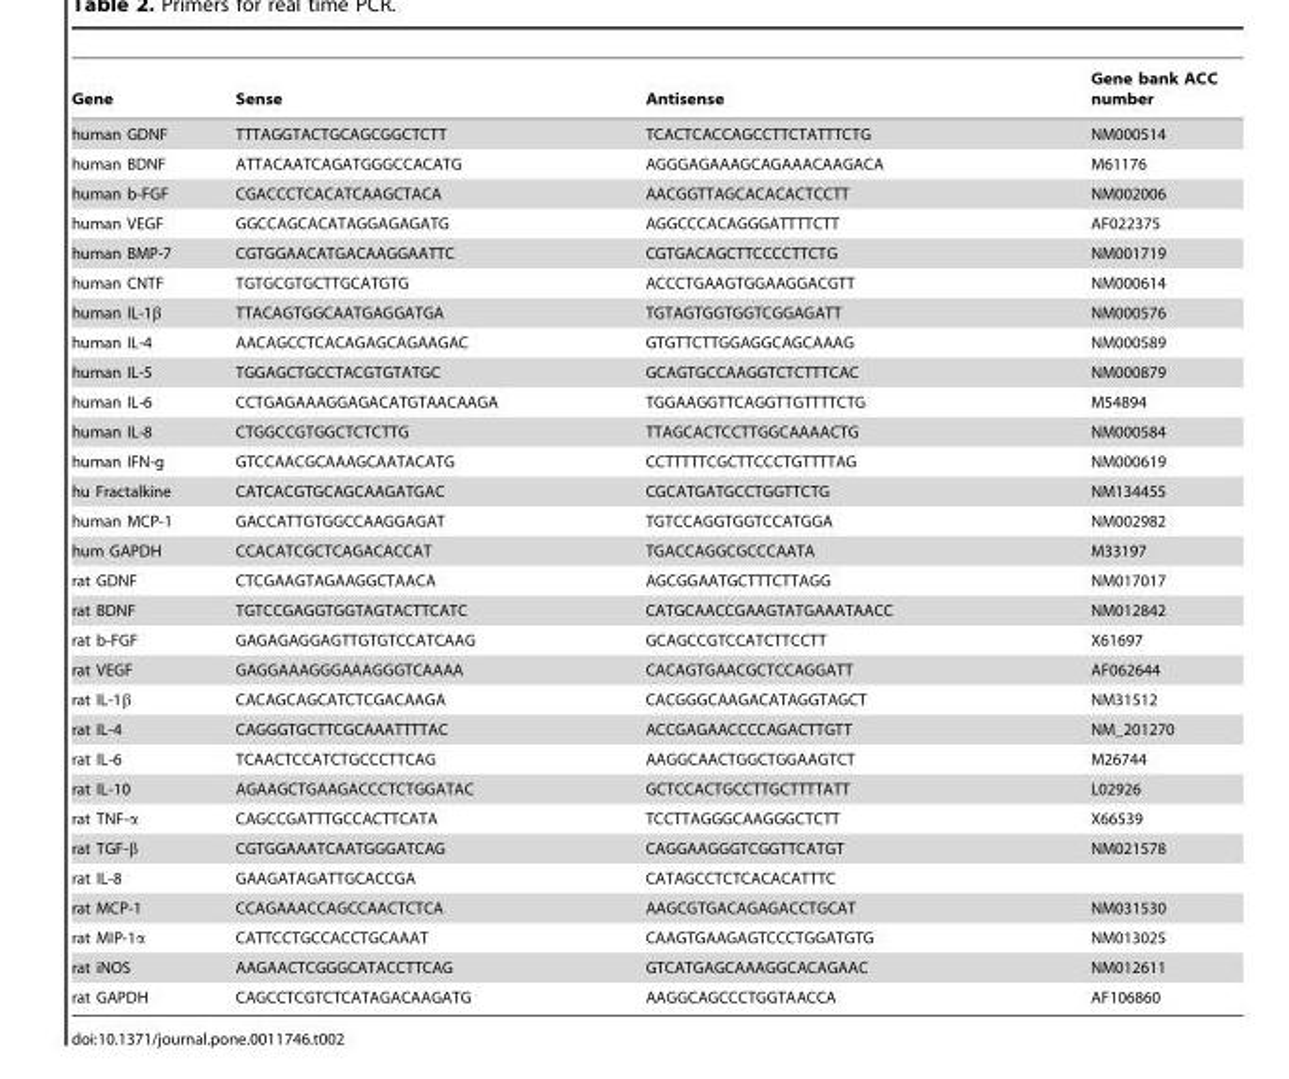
<table><thead><tr><td>Gene</td><td>Sense</td><td>Antisense</td><td>Gene bank ACC number</td></tr></thead><tbody><tr><td>human GDNF</td><td>TTTAGGTACTGCAGCGGCTCTT</td><td>TCACTCACCAGCCTTCTATTTCTG</td><td>NM000514</td></tr><tr><td>human BDNF</td><td>ATTACAATCAGATGGGCCACATG</td><td>AGGGAGAAAGCAGAAACAAGACA</td><td>M61176</td></tr><tr><td>human b-FGF</td><td>CGACCCTCACATCAAGCTACA</td><td>AACGGTTAGCACACACTCCTT</td><td>NM002006</td></tr><tr><td>human VEGF</td><td>GGCCAGCACATAGGAGAGATG</td><td>AGGCCCACAGGGATTTTCTT</td><td>AF022375</td></tr><tr><td>human BMP-7</td><td>CGTGGAACATGACAAGGAATTC</td><td>CGTGACAGCTTCCCCTTCTG</td><td>NM001719</td></tr><tr><td>human CNTF</td><td>TGTGCGTGCTTGCATGTG</td><td>ACCCTGAAGTGGAAGGACGTT</td><td>NM000614</td></tr><tr><td>human IL-1β</td><td>TTACAGTGGCAATGAGGATGA</td><td>TGTAGTGGTGGTCGGAGATT</td><td>NM000576</td></tr><tr><td>human IL-4</td><td>AACAGCCTCACAGAGCAGAAGAC</td><td>GTGTTCTTGGAGGCAGCAAAG</td><td>NM000589</td></tr><tr><td>human IL-5</td><td>TGGAGCTGCCTACGTGTATGC</td><td>GCAGTGCCAAGGTCTCTTTCAC</td><td>NM000879</td></tr><tr><td>human IL-6</td><td>CCTGAGAAAGGAGACATGTAACAAGA</td><td>TGGAAGGTTCAGGTTGTTTTCTG</td><td>M54894</td></tr><tr><td>human IL-8</td><td>CTGGCCGTGGCTCTCTTG</td><td>TTAGCACTCCTTGGCAAAACTG</td><td>NM000584</td></tr><tr><td>human IFN-g</td><td>GTCCAACGCAAAGCAATACATG</td><td>CCTTTTTCGCTTCCCTGTTTTAG</td><td>NM000619</td></tr><tr><td>hu Fractalkine</td><td>CATCACGTGCAGCAAGATGAC</td><td>CGCATGATGCCTGGTTCTG</td><td>NM134455</td></tr><tr><td>human MCP-1</td><td>GACCATTGTGGCCAAGGAGAT</td><td>TGTCCAGGTGGTCCATGGA</td><td>NM002982</td></tr><tr><td>hum GAPDH</td><td>CCACATCGCTCAGACACCAT</td><td>TGACCAGGCGCCCAATA</td><td>M33197</td></tr><tr><td>rat GDNF</td><td>CTCGAAGTAGAAGGCTAACA</td><td>AGCGGAATGCTTTCTTAGG</td><td>NM017017</td></tr><tr><td>rat BDNF</td><td>TGTCCGAGGTGGTAGTACTTCATC</td><td>CATGCAACCGAAGTATGAAATAACC</td><td>NM012842</td></tr><tr><td>rat b-FGF</td><td>GAGAGAGGAGTTGTGTCCATCAAG</td><td>GCAGCCGTCCATCTTCCTT</td><td>X61697</td></tr><tr><td>rat VEGF</td><td>GAGGAAAGGGAAAGGGTCAAAA</td><td>CACAGTGAACGCTCCAGGATT</td><td>AF062644</td></tr><tr><td>rat IL-1β</td><td>CACAGCAGCATCTCGACAAGA</td><td>CACGGGCAAGACATAGGTAGCT</td><td>NM31512</td></tr><tr><td>rat IL-4</td><td>CAGGGTGCTTCGCAAATTTTAC</td><td>ACCGAGAACCCCAGACTTGTT</td><td>NM_201270</td></tr><tr><td>rat IL-6</td><td>TCAACTCCATCTGCCCTTCAG</td><td>AAGGCAACTGGCTGGAAGTCT</td><td>M26744</td></tr><tr><td>rat IL-10</td><td>AGAAGCTGAAGACCCTCTGGATAC</td><td>GCTCCACTGCCTTGCTTTTATT</td><td>L02926</td></tr><tr><td>rat TNF-α</td><td>CAGCCGATTTGCCACTTCATA</td><td>TCCTTAGGGCAAGGGCTCTT</td><td>X66539</td></tr><tr><td>rat TGF-β</td><td>CGTGGAAATCAATGGGATCAG</td><td>CAGGAAGGGTCGGTTCATGT</td><td>NM021578</td></tr><tr><td>rat IL-8</td><td>GAAGATAGATTGCACCGA</td><td>CATAGCCTCTCACACATTTC</td><td></td></tr><tr><td>rat MCP-1</td><td>CCAGAAACCAGCCAACTCTCA</td><td>AAGCGTGACAGAGACCTGCAT</td><td>NM031530</td></tr><tr><td>rat MIP-1α</td><td>CATTCCTGCCACCTGCAAAT</td><td>CAAGTGAAGAGTCCCTGGATGTG</td><td>NM013025</td></tr><tr><td>rat iNOS</td><td>AAGAACTCGGGCATACCTTCAG</td><td>GTCATGAGCAAAGGCACAGAAC</td><td>NM012611</td></tr><tr><td>rat GAPDH</td><td>CAGCCTCGTCTCATAGACAAGATG</td><td>AAGGCAGCCCTGGTAACCA</td><td>AF106860</td></tr></tbody></table>